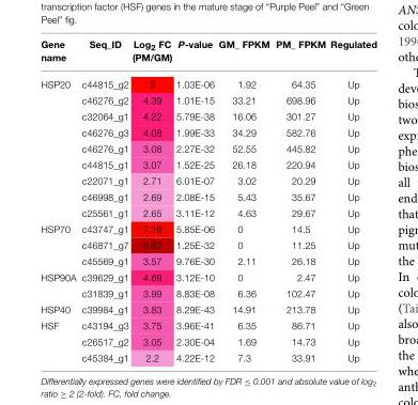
<table><thead><tr><td>Gene name</td><td>Seq_ID</td><td>Log<sub>2</sub> FC (PM/GM)</td><td>P-value</td><td>GM_ FPKM</td><td>PM_ FPKM</td><td>Regulated</td></tr></thead><tbody><tr><td rowspan="9">HSP20</td><td>c44815_g2</td><td>5</td><td>1.03E-06</td><td>1.92</td><td>64.35</td><td>Up</td></tr><tr><td>c46276_g2</td><td>4.39</td><td>1.01E-15</td><td>33.21</td><td>698.96</td><td>Up</td></tr><tr><td>c32064_g1</td><td>4.22</td><td>5.79E-38</td><td>16.06</td><td>301.27</td><td>Up</td></tr><tr><td>c46276_g3</td><td>4.08</td><td>1.99E-33</td><td>34.29</td><td>582.76</td><td>Up</td></tr><tr><td>c46276_g1</td><td>3.08</td><td>2.27E-32</td><td>52.55</td><td>445.82</td><td>Up</td></tr><tr><td>c44815_g1</td><td>3.07</td><td>1.52E-25</td><td>26.18</td><td>220.94</td><td>Up</td></tr><tr><td>c22071_g1</td><td>2.71</td><td>6.01E-07</td><td>3.02</td><td>20.29</td><td>Up</td></tr><tr><td>c46998_g1</td><td>2.69</td><td>2.08E-15</td><td>5.43</td><td>35.67</td><td>Up</td></tr><tr><td>c25561_g1</td><td>2.65</td><td>3.11E-12</td><td>4.63</td><td>29.67</td><td>Up</td></tr><tr><td rowspan="3">HSP70</td><td>c43747_g1</td><td>7.19</td><td>5.85E-06</td><td>0</td><td>14.5</td><td>Up</td></tr><tr><td>c46871_g7</td><td>6.83</td><td>1.25E-32</td><td>0</td><td>11.25</td><td>Up</td></tr><tr><td>c45569_g1</td><td>3.57</td><td>9.76E-30</td><td>2.11</td><td>26.18</td><td>Up</td></tr><tr><td rowspan="2">HSP90A</td><td>c39629_g1</td><td>4.69</td><td>3.12E-10</td><td>0</td><td>2.47</td><td>Up</td></tr><tr><td>c31839_g1</td><td>3.99</td><td>8.83E-08</td><td>6.36</td><td>102.47</td><td>Up</td></tr><tr><td>HSP40</td><td>c39984_g1</td><td>3.83</td><td>8.29E-43</td><td>14.91</td><td>213.78</td><td>Up</td></tr><tr><td rowspan="3">HSF</td><td>c43194_g3</td><td>3.75</td><td>3.96E-41</td><td>6.35</td><td>86.71</td><td>Up</td></tr><tr><td>c26517_g2</td><td>3.05</td><td>2.30E-04</td><td>1.69</td><td>14.73</td><td>Up</td></tr><tr><td>c45384_g1</td><td>2.2</td><td>4.22E-12</td><td>7.3</td><td>33.91</td><td>Up</td></tr></tbody></table>